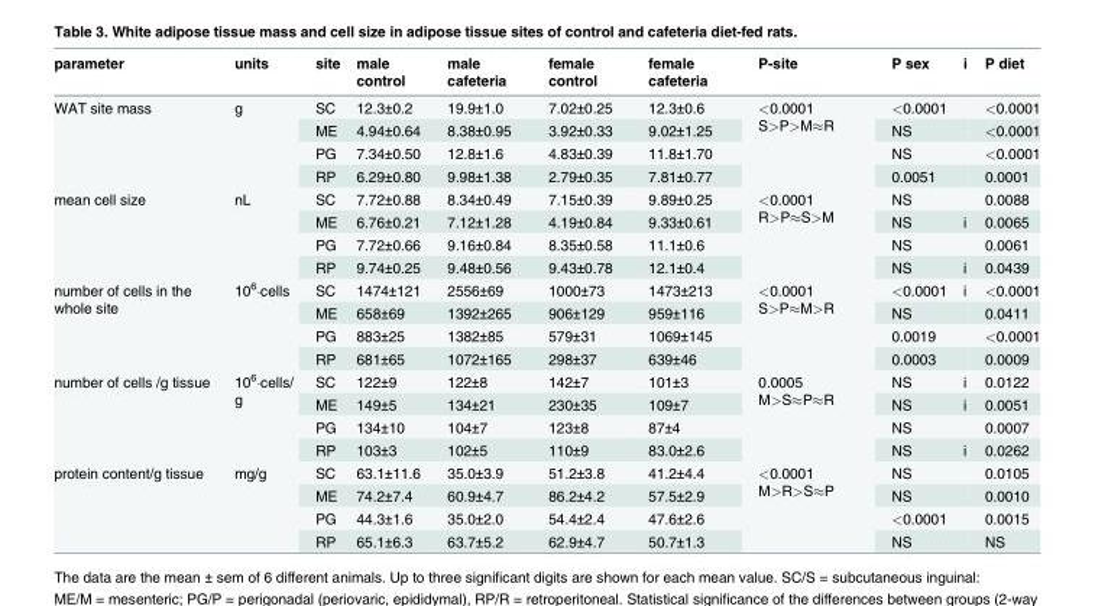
<table><thead><tr><td>parameter</td><td>units</td><td>site</td><td>male control</td><td>male cafeteria</td><td>female control</td><td>female cafeteria</td><td>P-site</td><td>P sex</td><td>i</td><td>P diet</td></tr></thead><tbody><tr><td rowspan="4">WAT site mass</td><td rowspan="4">g</td><td>SC</td><td>12.3±0.2</td><td>19.9±1.0</td><td>7.02±0.25</td><td>12.3±0.6</td><td rowspan="4">&lt;0.0001 S&gt;P&gt;M≈R</td><td>&lt;0.0001</td><td></td><td>&lt;0.0001</td></tr><tr><td>ME</td><td>4.94±0.64</td><td>8.38±0.95</td><td>3.92±0.33</td><td>9.02±1.25</td><td>NS</td><td></td><td>&lt;0.0001</td></tr><tr><td>PG</td><td>7.34±0.50</td><td>12.8±1.6</td><td>4.83±0.39</td><td>11.8±1.70</td><td>NS</td><td></td><td>&lt;0.0001</td></tr><tr><td>RP</td><td>6.29±0.80</td><td>9.98±1.38</td><td>2.79±0.35</td><td>7.81±0.77</td><td>0.0051</td><td></td><td>0.0001</td></tr><tr><td rowspan="4">mean cell size</td><td rowspan="4">nL</td><td>SC</td><td>7.72±0.88</td><td>8.34±0.49</td><td>7.15±0.39</td><td>9.89±0.25</td><td rowspan="4">&lt;0.0001 R&gt;P≈S&gt;M</td><td>NS</td><td></td><td>0.0088</td></tr><tr><td>ME</td><td>6.76±0.21</td><td>7.12±1.28</td><td>4.19±0.84</td><td>9.33±0.61</td><td>NS</td><td>i</td><td>0.0065</td></tr><tr><td>PG</td><td>7.72±0.66</td><td>9.16±0.84</td><td>8.35±0.58</td><td>11.1±0.6</td><td>NS</td><td></td><td>0.0061</td></tr><tr><td>RP</td><td>9.74±0.25</td><td>9.48±0.56</td><td>9.43±0.78</td><td>12.1±0.4</td><td>NS</td><td>i</td><td>0.0439</td></tr><tr><td rowspan="4">number of cells in the whole site</td><td rowspan="4">10<sup>6</sup>·cells</td><td>SC</td><td>1474±121</td><td>2556±69</td><td>1000±73</td><td>1473±213</td><td rowspan="4">&lt;0.0001 S&gt;P≈M&gt;R</td><td>&lt;0.0001</td><td>i</td><td>&lt;0.0001</td></tr><tr><td>ME</td><td>658±69</td><td>1392±265</td><td>906±129</td><td>959±116</td><td>NS</td><td></td><td>0.0411</td></tr><tr><td>PG</td><td>883±25</td><td>1382±85</td><td>579±31</td><td>1069±145</td><td>0.0019</td><td></td><td>&lt;0.0001</td></tr><tr><td>RP</td><td>681±65</td><td>1072±165</td><td>298±37</td><td>639±46</td><td>0.0003</td><td></td><td>0.0009</td></tr><tr><td rowspan="4">number of cells /g tissue</td><td rowspan="4">10<sup>6</sup>·cells/ g</td><td>SC</td><td>122±9</td><td>122±8</td><td>142±7</td><td>101±3</td><td rowspan="4">0.0005 M&gt;S≈P≈R</td><td>NS</td><td>i</td><td>0.0122</td></tr><tr><td>ME</td><td>149±5</td><td>134±21</td><td>230±35</td><td>109±7</td><td>NS</td><td>i</td><td>0.0051</td></tr><tr><td>PG</td><td>134±10</td><td>104±7</td><td>123±8</td><td>87±4</td><td>NS</td><td></td><td>0.0007</td></tr><tr><td>RP</td><td>103±3</td><td>102±5</td><td>110±9</td><td>83.0±2.6</td><td>NS</td><td>i</td><td>0.0262</td></tr><tr><td rowspan="4">protein content/g tissue</td><td rowspan="4">mg/g</td><td>SC</td><td>63.1±11.6</td><td>35.0±3.9</td><td>51.2±3.8</td><td>41.2±4.4</td><td rowspan="4">&lt;0.0001 M&gt;R&gt;S≈P</td><td>NS</td><td></td><td>0.0105</td></tr><tr><td>ME</td><td>74.2±7.4</td><td>60.9±4.7</td><td>86.2±4.2</td><td>57.5±2.9</td><td>NS</td><td></td><td>0.0010</td></tr><tr><td>PG</td><td>44.3±1.6</td><td>35.0±2.0</td><td>54.4±2.4</td><td>47.6±2.6</td><td>&lt;0.0001</td><td></td><td>0.0015</td></tr><tr><td>RP</td><td>65.1±6.3</td><td>63.7±5.2</td><td>62.9±4.7</td><td>50.7±1.3</td><td>NS</td><td></td><td>NS</td></tr></tbody></table>